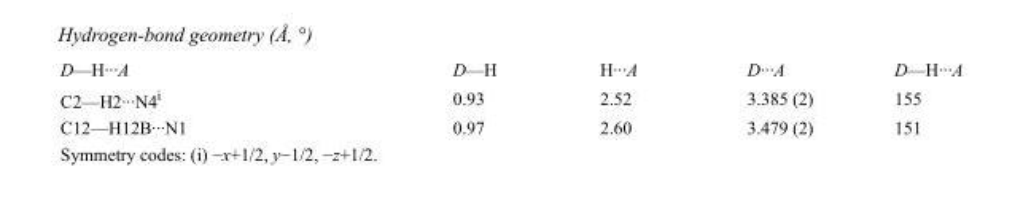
<table><tbody><tr><td>D—H···A</td><td>D—H</td><td>H···A</td><td>D···A</td><td>D—H···A</td></tr><tr><td>C2—H2···N4<sup>i</sup></td><td>0.93</td><td>2.52</td><td>3.385 (2)</td><td>155</td></tr><tr><td>C12—H12B···N1</td><td>0.97</td><td>2.60</td><td>3.479 (2)</td><td>151</td></tr></tbody></table>